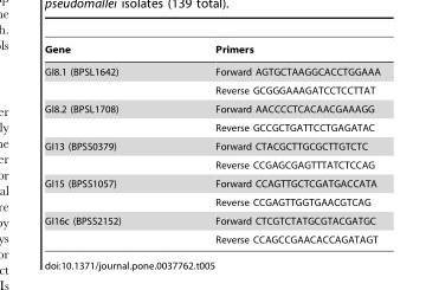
<table><thead><tr><td>Gene</td><td>Primers</td></tr></thead><tbody><tr><td rowspan="2">GI8.1 (BPSL1642)</td><td>Forward AGTGCTAAGGCACCTGGAAA</td></tr><tr><td>Reverse GCGGGAAAGATCCTCCTTAT</td></tr><tr><td rowspan="2">GI8.2 (BPSL1708)</td><td>Forward AACCCCTCACAACGAAAGG</td></tr><tr><td>Reverse GCCGCTGATTCCTGAGATAC</td></tr><tr><td rowspan="2">GI13 (BPSS0379)</td><td>Forward CTACGCTTGCGCTTGTCTC</td></tr><tr><td>Reverse CCGAGCGAGTTTATCTCCAG</td></tr><tr><td rowspan="2">GI15 (BPSS1057)</td><td>Forward CCAGTTGCTCGATGACCATA</td></tr><tr><td>Reverse CCGAGTTGGTGAACGTCAG</td></tr><tr><td rowspan="2">GI16c (BPSS2152)</td><td>Forward CTCGTCTATGCGTACGATGC</td></tr><tr><td>Reverse CCAGCCGAACACCAGATAGT</td></tr></tbody></table>